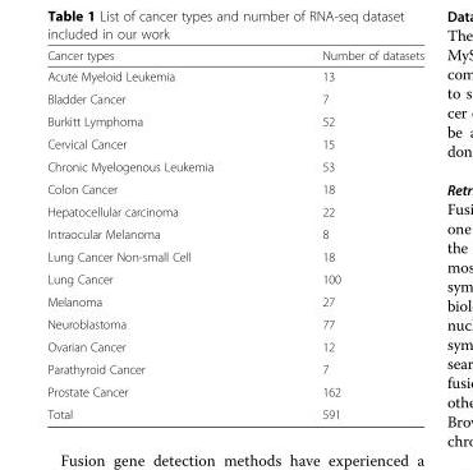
<table><thead><tr><td>Cancer types</td><td>Number of datasets</td></tr></thead><tbody><tr><td>Acute Myeloid Leukemia</td><td>13</td></tr><tr><td>Bladder Cancer</td><td>7</td></tr><tr><td>Burkitt Lymphoma</td><td>52</td></tr><tr><td>Cervical Cancer</td><td>15</td></tr><tr><td>Chronic Myelogenous Leukemia</td><td>53</td></tr><tr><td>Colon Cancer</td><td>18</td></tr><tr><td>Hepatocellular carcinoma</td><td>22</td></tr><tr><td>Intraocular Melanoma</td><td>8</td></tr><tr><td>Lung Cancer Non-small Cell</td><td>18</td></tr><tr><td>Lung Cancer</td><td>100</td></tr><tr><td>Melanoma</td><td>27</td></tr><tr><td>Neuroblastoma</td><td>77</td></tr><tr><td>Ovarian Cancer</td><td>12</td></tr><tr><td>Parathyroid Cancer</td><td>7</td></tr><tr><td>Prostate Cancer</td><td>162</td></tr><tr><td>Total</td><td>591</td></tr></tbody></table>